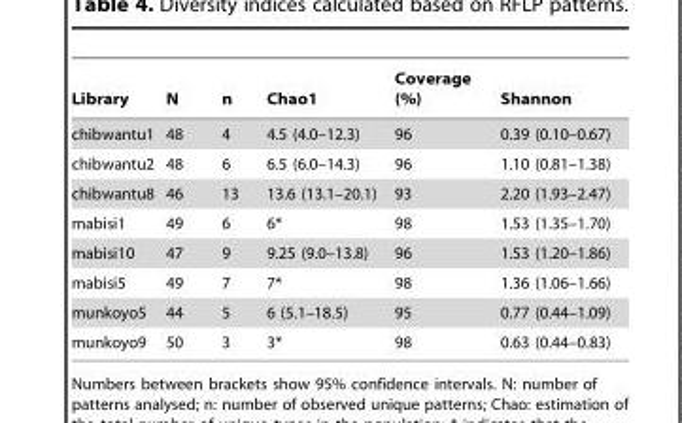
<table><thead><tr><td>Library</td><td>N</td><td>n</td><td>Chao1</td><td>Coverage (%)</td><td>Shannon</td></tr></thead><tbody><tr><td>chibwantu1</td><td>48</td><td>4</td><td>4.5 (4.0–12.3)</td><td>96</td><td>0.39 (0.10–0.67)</td></tr><tr><td>chibwantu2</td><td>48</td><td>6</td><td>6.5 (6.0–14.3)</td><td>96</td><td>1.10 (0.81–1.38)</td></tr><tr><td>chibwantu8</td><td>46</td><td>13</td><td>13.6 (13.1–20.1)</td><td>93</td><td>2.20 (1.93–2.47)</td></tr><tr><td>mabisi1</td><td>49</td><td>6</td><td>6*</td><td>98</td><td>1.53 (1.35–1.70)</td></tr><tr><td>mabisi10</td><td>47</td><td>9</td><td>9.25 (9.0–13.8)</td><td>96</td><td>1.53 (1.20–1.86)</td></tr><tr><td>mabisi5</td><td>49</td><td>7</td><td>7*</td><td>98</td><td>1.36 (1.06–1.66)</td></tr><tr><td>munkoyo5</td><td>44</td><td>5</td><td>6 (5.1–18.5)</td><td>95</td><td>0.77 (0.44–1.09)</td></tr><tr><td>munkoyo9</td><td>50</td><td>3</td><td>3*</td><td>98</td><td>0.63 (0.44–0.83)</td></tr></tbody></table>